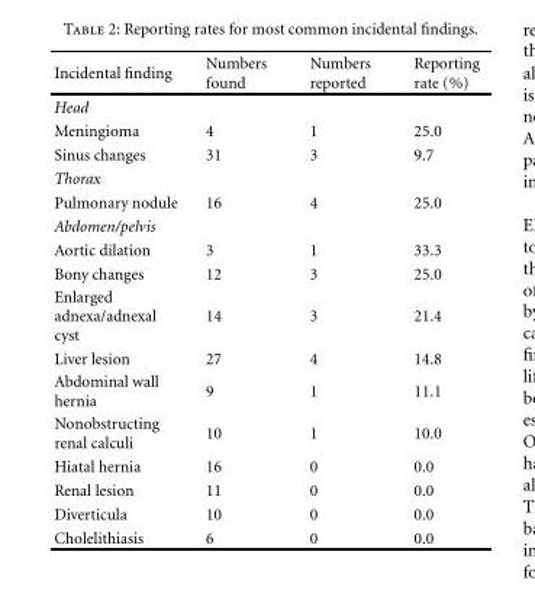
<table><thead><tr><td>Incidental finding</td><td>Numbers found</td><td>Numbers reported</td><td>Reporting rate (%)</td></tr></thead><tbody><tr><td colspan="4">Head</td></tr><tr><td>Meningioma</td><td>4</td><td>1</td><td>25.0</td></tr><tr><td>Sinus changes</td><td>31</td><td>3</td><td>9.7</td></tr><tr><td colspan="4">Thorax</td></tr><tr><td>Pulmonary nodule</td><td>16</td><td>4</td><td>25.0</td></tr><tr><td colspan="4">Abdomen/pelvis</td></tr><tr><td>Aortic dilation</td><td>3</td><td>1</td><td>33.3</td></tr><tr><td>Bony changes</td><td>12</td><td>3</td><td>25.0</td></tr><tr><td>Enlarged adnexa/adnexal cyst</td><td>14</td><td>3</td><td>21.4</td></tr><tr><td>Liver lesion</td><td>27</td><td>4</td><td>14.8</td></tr><tr><td>Abdominal wall hernia</td><td>9</td><td>1</td><td>11.1</td></tr><tr><td>Nonobstructing renal calculi</td><td>10</td><td>1</td><td>10.0</td></tr><tr><td>Hiatal hernia</td><td>16</td><td>0</td><td>0.0</td></tr><tr><td>Renal lesion</td><td>11</td><td>0</td><td>0.0</td></tr><tr><td>Diverticula</td><td>10</td><td>0</td><td>0.0</td></tr><tr><td>Cholelithiasis</td><td>6</td><td>0</td><td>0.0</td></tr></tbody></table>